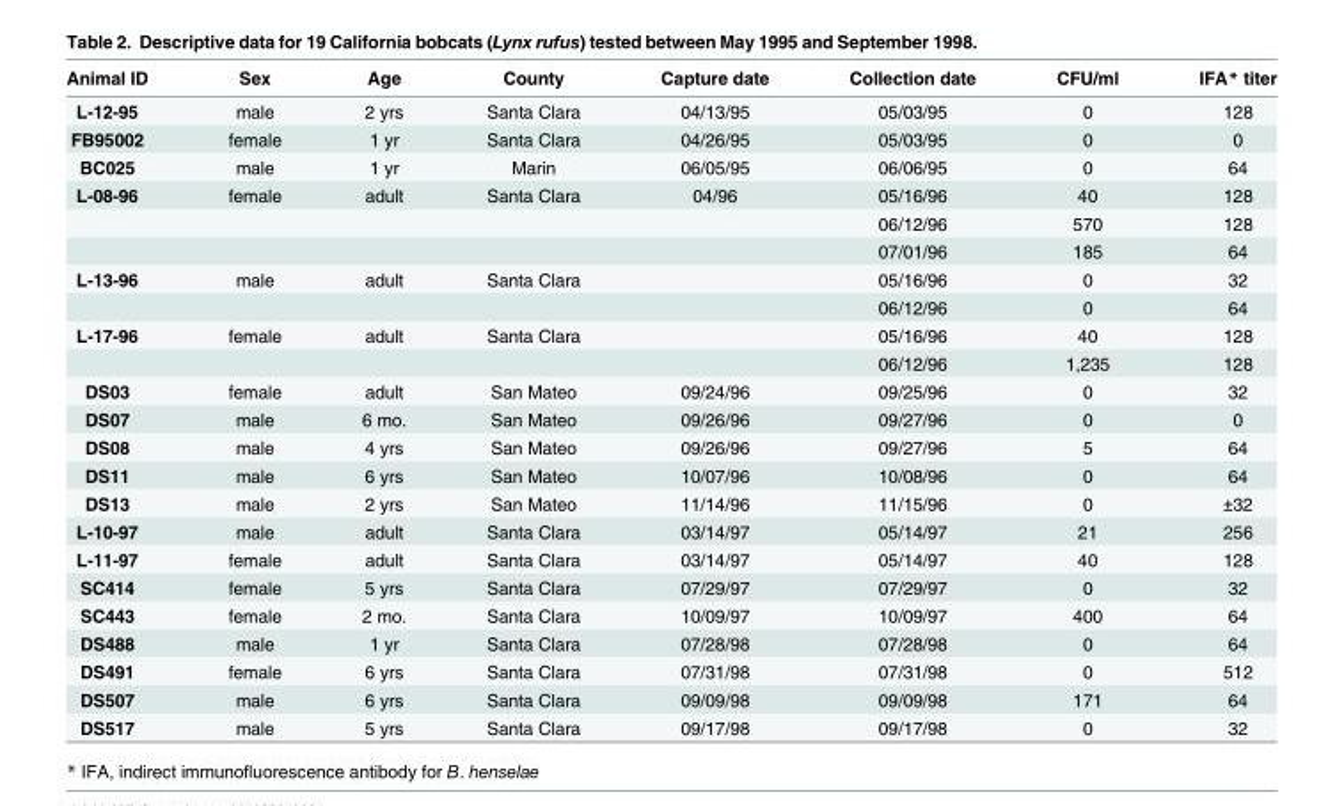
<table><thead><tr><td>Animal ID</td><td>Sex</td><td>Age</td><td>County</td><td>Capture date</td><td>Collection date</td><td>CFU/ml</td><td>IFA* titer</td></tr></thead><tbody><tr><td>L-12-95</td><td>male</td><td>2 yrs</td><td>Santa Clara</td><td>04/13/95</td><td>05/03/95</td><td>0</td><td>128</td></tr><tr><td>FB95002</td><td>female</td><td>1 yr</td><td>Santa Clara</td><td>04/26/95</td><td>05/03/95</td><td>0</td><td>0</td></tr><tr><td>BC025</td><td>male</td><td>1 yr</td><td>Marin</td><td>06/05/95</td><td>06/06/95</td><td>0</td><td>64</td></tr><tr><td rowspan="3">L-08-96</td><td>female</td><td>adult</td><td>Santa Clara</td><td>04/96</td><td>05/16/96</td><td>40</td><td>128</td></tr><tr><td></td><td></td><td></td><td></td><td>06/12/96</td><td>570</td><td>128</td></tr><tr><td></td><td></td><td></td><td></td><td>07/01/96</td><td>185</td><td>64</td></tr><tr><td rowspan="2">L-13-96</td><td>male</td><td>adult</td><td>Santa Clara</td><td></td><td>05/16/96</td><td>0</td><td>32</td></tr><tr><td></td><td></td><td></td><td></td><td>06/12/96</td><td>0</td><td>64</td></tr><tr><td rowspan="2">L-17-96</td><td>female</td><td>adult</td><td>Santa Clara</td><td></td><td>05/16/96</td><td>40</td><td>128</td></tr><tr><td></td><td></td><td></td><td></td><td>06/12/96</td><td>1,235</td><td>128</td></tr><tr><td>DS03</td><td>female</td><td>adult</td><td>San Mateo</td><td>09/24/96</td><td>09/25/96</td><td>0</td><td>32</td></tr><tr><td>DS07</td><td>male</td><td>6 mo.</td><td>San Mateo</td><td>09/26/96</td><td>09/27/96</td><td>0</td><td>0</td></tr><tr><td>DS08</td><td>male</td><td>4 yrs</td><td>San Mateo</td><td>09/26/96</td><td>09/27/96</td><td>5</td><td>64</td></tr><tr><td>DS11</td><td>male</td><td>6 yrs</td><td>San Mateo</td><td>10/07/96</td><td>10/08/96</td><td>0</td><td>64</td></tr><tr><td>DS13</td><td>male</td><td>2 yrs</td><td>San Mateo</td><td>11/14/96</td><td>11/15/96</td><td>0</td><td>±32</td></tr><tr><td>L-10-97</td><td>male</td><td>adult</td><td>Santa Clara</td><td>03/14/97</td><td>05/14/97</td><td>21</td><td>256</td></tr><tr><td>L-11-97</td><td>female</td><td>adult</td><td>Santa Clara</td><td>03/14/97</td><td>05/14/97</td><td>40</td><td>128</td></tr><tr><td>SC414</td><td>female</td><td>5 yrs</td><td>Santa Clara</td><td>07/29/97</td><td>07/29/97</td><td>0</td><td>32</td></tr><tr><td>SC443</td><td>female</td><td>2 mo.</td><td>Santa Clara</td><td>10/09/97</td><td>10/09/97</td><td>400</td><td>64</td></tr><tr><td>DS488</td><td>male</td><td>1 yr</td><td>Santa Clara</td><td>07/28/98</td><td>07/28/98</td><td>0</td><td>64</td></tr><tr><td>DS491</td><td>female</td><td>6 yrs</td><td>Santa Clara</td><td>07/31/98</td><td>07/31/98</td><td>0</td><td>512</td></tr><tr><td>DS507</td><td>male</td><td>6 yrs</td><td>Santa Clara</td><td>09/09/98</td><td>09/09/98</td><td>171</td><td>64</td></tr><tr><td>DS517</td><td>male</td><td>5 yrs</td><td>Santa Clara</td><td>09/17/98</td><td>09/17/98</td><td>0</td><td>32</td></tr></tbody></table>